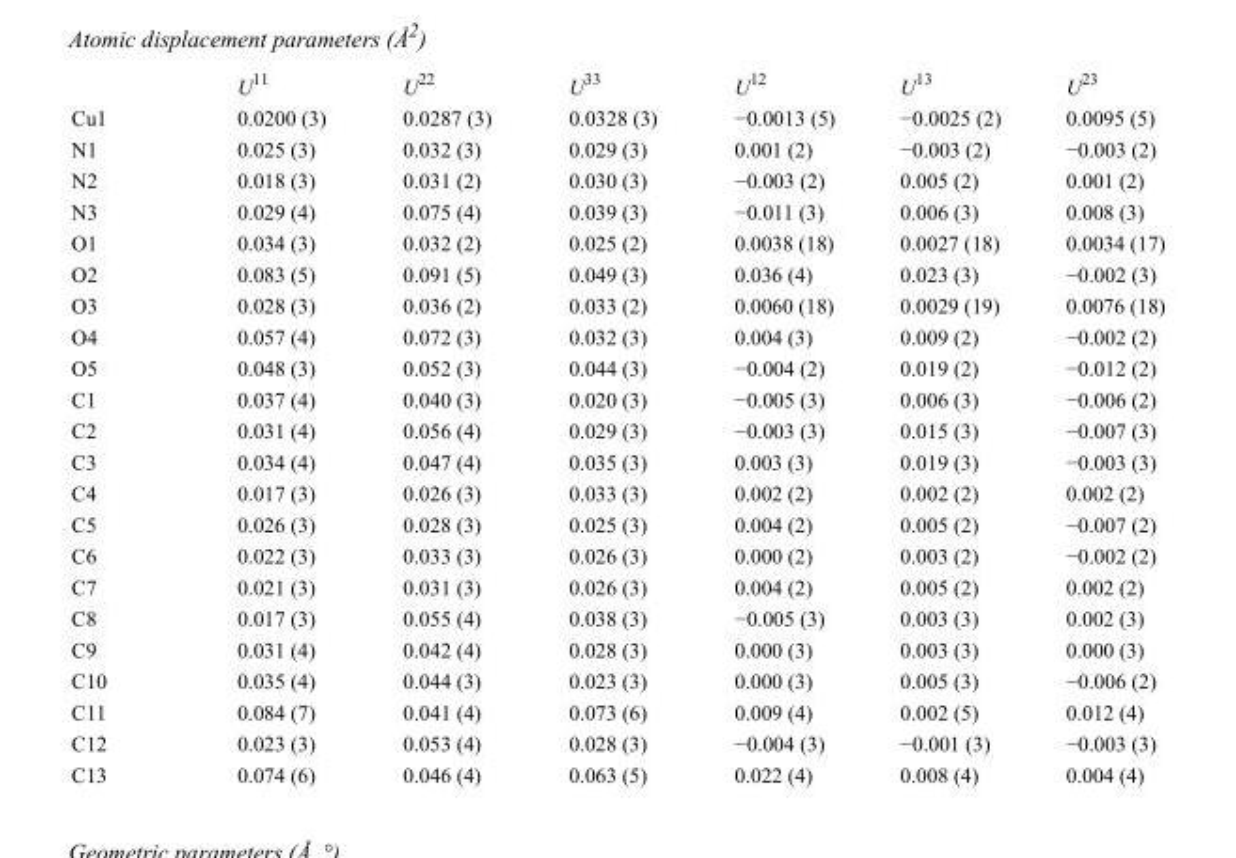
<table><thead><tr><td></td><td>U<sup>11</sup></td><td>U<sup>22</sup></td><td>U<sup>33</sup></td><td>U<sup>12</sup></td><td>U<sup>13</sup></td><td>U<sup>23</sup></td></tr></thead><tbody><tr><td>Cu1</td><td>0.0200 (3)</td><td>0.0287 (3)</td><td>0.0328 (3)</td><td>−0.0013 (5)</td><td>−0.0025 (2)</td><td>0.0095 (5)</td></tr><tr><td>N1</td><td>0.025 (3)</td><td>0.032 (3)</td><td>0.029 (3)</td><td>0.001 (2)</td><td>−0.003 (2)</td><td>−0.003 (2)</td></tr><tr><td>N2</td><td>0.018 (3)</td><td>0.031 (2)</td><td>0.030 (3)</td><td>−0.003 (2)</td><td>0.005 (2)</td><td>0.001 (2)</td></tr><tr><td>N3</td><td>0.029 (4)</td><td>0.075 (4)</td><td>0.039 (3)</td><td>−0.011 (3)</td><td>0.006 (3)</td><td>0.008 (3)</td></tr><tr><td>O1</td><td>0.034 (3)</td><td>0.032 (2)</td><td>0.025 (2)</td><td>0.0038 (18)</td><td>0.0027 (18)</td><td>0.0034 (17)</td></tr><tr><td>O2</td><td>0.083 (5)</td><td>0.091 (5)</td><td>0.049 (3)</td><td>0.036 (4)</td><td>0.023 (3)</td><td>−0.002 (3)</td></tr><tr><td>O3</td><td>0.028 (3)</td><td>0.036 (2)</td><td>0.033 (2)</td><td>0.0060 (18)</td><td>0.0029 (19)</td><td>0.0076 (18)</td></tr><tr><td>O4</td><td>0.057 (4)</td><td>0.072 (3)</td><td>0.032 (3)</td><td>0.004 (3)</td><td>0.009 (2)</td><td>−0.002 (2)</td></tr><tr><td>O5</td><td>0.048 (3)</td><td>0.052 (3)</td><td>0.044 (3)</td><td>−0.004 (2)</td><td>0.019 (2)</td><td>−0.012 (2)</td></tr><tr><td>C1</td><td>0.037 (4)</td><td>0.040 (3)</td><td>0.020 (3)</td><td>−0.005 (3)</td><td>0.006 (3)</td><td>−0.006 (2)</td></tr><tr><td>C2</td><td>0.031 (4)</td><td>0.056 (4)</td><td>0.029 (3)</td><td>−0.003 (3)</td><td>0.015 (3)</td><td>−0.007 (3)</td></tr><tr><td>C3</td><td>0.034 (4)</td><td>0.047 (4)</td><td>0.035 (3)</td><td>0.003 (3)</td><td>0.019 (3)</td><td>−0.003 (3)</td></tr><tr><td>C4</td><td>0.017 (3)</td><td>0.026 (3)</td><td>0.033 (3)</td><td>0.002 (2)</td><td>0.002 (2)</td><td>0.002 (2)</td></tr><tr><td>C5</td><td>0.026 (3)</td><td>0.028 (3)</td><td>0.025 (3)</td><td>0.004 (2)</td><td>0.005 (2)</td><td>−0.007 (2)</td></tr><tr><td>C6</td><td>0.022 (3)</td><td>0.033 (3)</td><td>0.026 (3)</td><td>0.000 (2)</td><td>0.003 (2)</td><td>−0.002 (2)</td></tr><tr><td>C7</td><td>0.021 (3)</td><td>0.031 (3)</td><td>0.026 (3)</td><td>0.004 (2)</td><td>0.005 (2)</td><td>0.002 (2)</td></tr><tr><td>C8</td><td>0.017 (3)</td><td>0.055 (4)</td><td>0.038 (3)</td><td>−0.005 (3)</td><td>0.003 (3)</td><td>0.002 (3)</td></tr><tr><td>C9</td><td>0.031 (4)</td><td>0.042 (4)</td><td>0.028 (3)</td><td>0.000 (3)</td><td>0.003 (3)</td><td>0.000 (3)</td></tr><tr><td>C10</td><td>0.035 (4)</td><td>0.044 (3)</td><td>0.023 (3)</td><td>0.000 (3)</td><td>0.005 (3)</td><td>−0.006 (2)</td></tr><tr><td>C11</td><td>0.084 (7)</td><td>0.041 (4)</td><td>0.073 (6)</td><td>0.009 (4)</td><td>0.002 (5)</td><td>0.012 (4)</td></tr><tr><td>C12</td><td>0.023 (3)</td><td>0.053 (4)</td><td>0.028 (3)</td><td>−0.004 (3)</td><td>−0.001 (3)</td><td>−0.003 (3)</td></tr><tr><td>C13</td><td>0.074 (6)</td><td>0.046 (4)</td><td>0.063 (5)</td><td>0.022 (4)</td><td>0.008 (4)</td><td>0.004 (4)</td></tr></tbody></table>